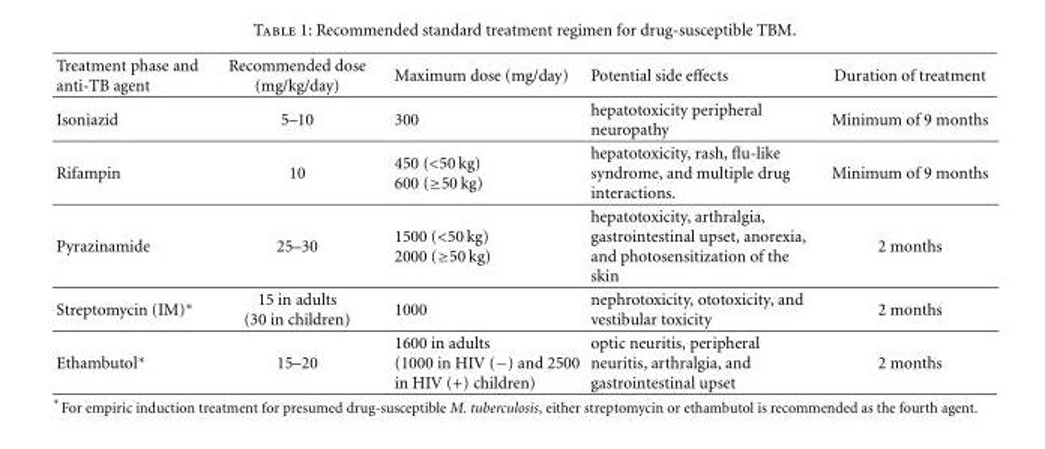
<table><thead><tr><td>Treatment phase and anti-TB agent</td><td>Recommended dose (mg/kg/day)</td><td>Maximum dose (mg/day)</td><td>Potential side effects</td><td>Duration of treatment</td></tr></thead><tbody><tr><td>Isoniazid</td><td>5–10</td><td>300</td><td>hepatotoxicity peripheral neuropathy</td><td>Minimum of 9 months</td></tr><tr><td>Rifampin</td><td>10</td><td>450 (&lt;50 kg) 600 (≥50 kg)</td><td>hepatotoxicity, rash, flu-like syndrome, and multiple drug interactions.</td><td>Minimum of 9 months</td></tr><tr><td>Pyrazinamide</td><td>25–30</td><td>1500 (&lt;50 kg) 2000 (≥50 kg)</td><td>hepatotoxicity, arthralgia, gastrointestinal upset, anorexia, and photosensitization of the skin</td><td>2 months</td></tr><tr><td>Streptomycin (IM)∗</td><td>15 in adults (30 in children)</td><td>1000</td><td>nephrotoxicity, ototoxicity, and vestibular toxicity</td><td>2 months</td></tr><tr><td>Ethambutol∗</td><td>15–20</td><td>1600 in adults (1000 in HIV (−) and 2500 in HIV (+) children)</td><td>optic neuritis, peripheral neuritis, arthralgia, and gastrointestinal upset</td><td>2 months</td></tr></tbody></table>